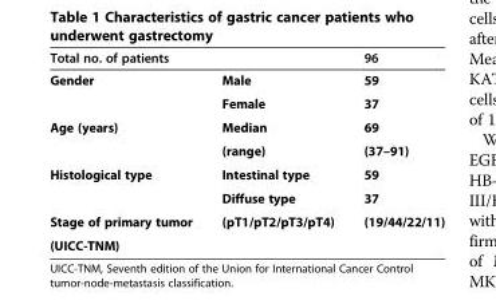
<table><thead><tr><td>Total no. of patients</td><td></td><td>96</td></tr></thead><tbody><tr><td rowspan="2">Gender</td><td>Male</td><td>59</td></tr><tr><td>Female</td><td>37</td></tr><tr><td rowspan="2">Age (years)</td><td>Median</td><td>69</td></tr><tr><td>(range)</td><td>(37–91)</td></tr><tr><td rowspan="2">Histological type</td><td>Intestinal type</td><td>59</td></tr><tr><td>Diffuse type</td><td>37</td></tr><tr><td>Stage of primary tumor</td><td>(pT1/pT2/pT3/pT4)</td><td>(19/44/22/11)</td></tr><tr><td>(UICC-TNM)</td><td></td><td></td></tr></tbody></table>